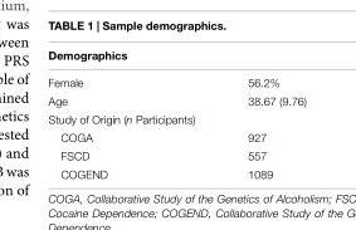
<table><thead><tr><td colspan="2">Demographics</td></tr><tr><td>Female</td><td>56.2%</td></tr></thead><tbody><tr><td>Age</td><td>38.67 (9.76)</td></tr><tr><td colspan="2">Study of Origin (n Participants)</td></tr><tr><td>COGA</td><td>927</td></tr><tr><td>FSCD</td><td>557</td></tr><tr><td>COGEND</td><td>1089</td></tr></tbody></table>